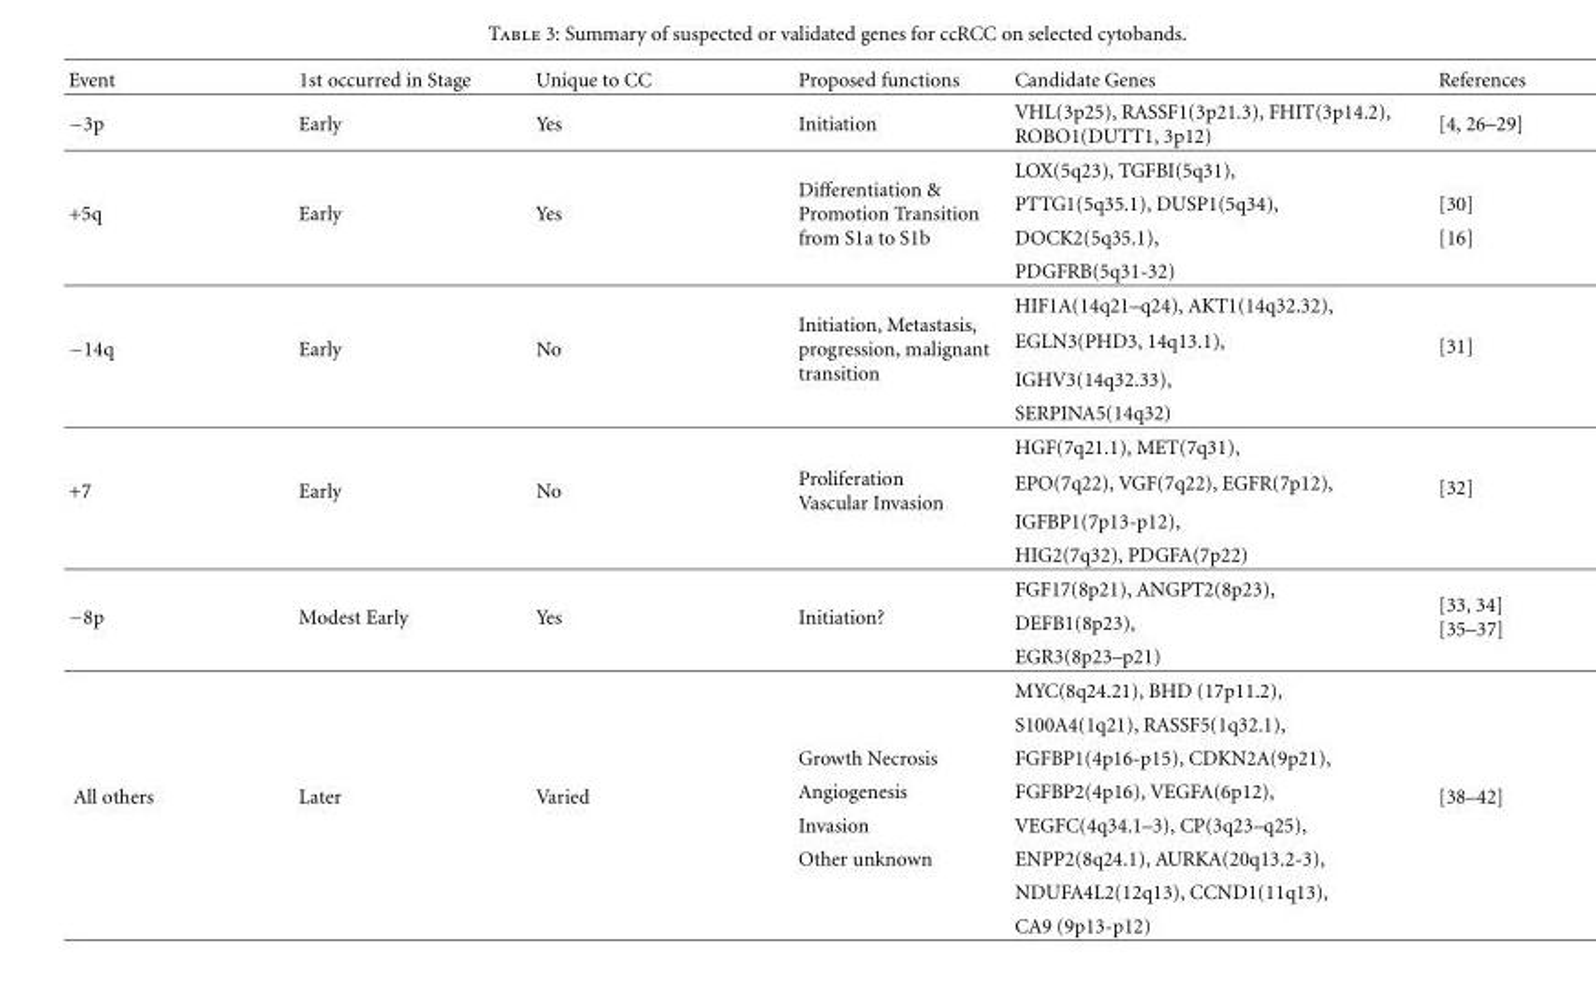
<table><thead><tr><td>Event</td><td>1st occurred in Stage</td><td>Unique to CC</td><td>Proposed functions</td><td>Candidate Genes</td><td>References</td></tr></thead><tbody><tr><td>−3p</td><td>Early</td><td>Yes</td><td>Initiation</td><td>VHL(3p25), RASSF1(3p21.3), FHIT(3p14.2), ROBO1(DUTT1, 3p12)</td><td>[4, 26–29]</td></tr><tr><td rowspan="4">+5q</td><td rowspan="4">Early</td><td rowspan="4">Yes</td><td rowspan="4">Differentiation &amp; Promotion Transition from S1a to S1b</td><td>LOX(5q23), TGFBI(5q31),</td><td></td></tr><tr><td>PTTG1(5q35.1), DUSP1(5q34),</td><td>[30]</td></tr><tr><td>DOCK2(5q35.1),</td><td>[16]</td></tr><tr><td>PDGFRB(5q31-32)</td><td></td></tr><tr><td rowspan="4">−14q</td><td rowspan="4">Early</td><td rowspan="4">No</td><td rowspan="4">Initiation, Metastasis, progression, malignant transition</td><td>HIF1A(14q21–q24), AKT1(14q32.32),</td><td></td></tr><tr><td>EGLN3(PHD3, 14q13.1),</td><td>[31]</td></tr><tr><td>IGHV3(14q32.33),</td><td></td></tr><tr><td>SERPINA5(14q32)</td><td></td></tr><tr><td rowspan="4">+7</td><td rowspan="4">Early</td><td rowspan="4">No</td><td rowspan="4">Proliferation Vascular Invasion</td><td>HGF(7q21.1), MET(7q31),</td><td></td></tr><tr><td>EPO(7q22), VGF(7q22), EGFR(7p12),</td><td>[32]</td></tr><tr><td>IGFBP1(7p13-p12),</td><td></td></tr><tr><td>HIG2(7q32), PDGFA(7p22)</td><td></td></tr><tr><td rowspan="3">−8p</td><td rowspan="3">Modest Early</td><td rowspan="3">Yes</td><td rowspan="3">Initiation?</td><td>FGF17(8p21), ANGPT2(8p23),</td><td rowspan="3">[33, 34] [35–37]</td></tr><tr><td>DEFB1(8p23),</td></tr><tr><td>EGR3(8p23–p21)</td></tr><tr><td rowspan="8">All others</td><td rowspan="8">Later</td><td rowspan="8">Varied</td><td></td><td>MYC(8q24.21), BHD (17p11.2),</td><td rowspan="8">[38–42]</td></tr><tr><td></td><td>S100A4(1q21), RASSF5(1q32.1),</td></tr><tr><td>Growth Necrosis</td><td>FGFBP1(4p16-p15), CDKN2A(9p21),</td></tr><tr><td>Angiogenesis</td><td>FGFBP2(4p16), VEGFA(6p12),</td></tr><tr><td>Invasion</td><td>VEGFC(4q34.1–3), CP(3q23–q25),</td></tr><tr><td>Other unknown</td><td>ENPP2(8q24.1), AURKA(20q13.2-3),</td></tr><tr><td></td><td>NDUFA4L2(12q13), CCND1(11q13),</td></tr><tr><td></td><td>CA9 (9p13-p12)</td></tr></tbody></table>